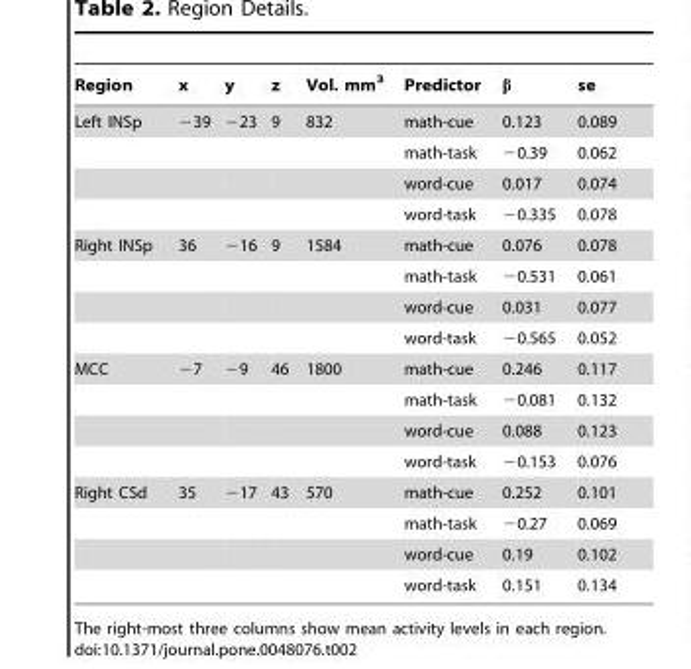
<table><thead><tr><td>Region</td><td>x</td><td>y</td><td>z</td><td>Vol. mm<sup>3</sup></td><td>Predictor</td><td>β</td><td>se</td></tr></thead><tbody><tr><td rowspan="4">Left INSp</td><td>−39</td><td>−23</td><td>9</td><td>832</td><td>math-cue</td><td>0.123</td><td>0.089</td></tr><tr><td></td><td></td><td></td><td></td><td>math-task</td><td>−0.39</td><td>0.062</td></tr><tr><td></td><td></td><td></td><td></td><td>word-cue</td><td>0.017</td><td>0.074</td></tr><tr><td></td><td></td><td></td><td></td><td>word-task</td><td>−0.335</td><td>0.078</td></tr><tr><td rowspan="4">Right INSp</td><td>36</td><td>−16</td><td>9</td><td>1584</td><td>math-cue</td><td>0.076</td><td>0.078</td></tr><tr><td></td><td></td><td></td><td></td><td>math-task</td><td>−0.531</td><td>0.061</td></tr><tr><td></td><td></td><td></td><td></td><td>word-cue</td><td>0.031</td><td>0.077</td></tr><tr><td></td><td></td><td></td><td></td><td>word-task</td><td>−0.565</td><td>0.052</td></tr><tr><td rowspan="4">MCC</td><td>−7</td><td>−9</td><td>46</td><td>1800</td><td>math-cue</td><td>0.246</td><td>0.117</td></tr><tr><td></td><td></td><td></td><td></td><td>math-task</td><td>−0.081</td><td>0.132</td></tr><tr><td></td><td></td><td></td><td></td><td>word-cue</td><td>0.088</td><td>0.123</td></tr><tr><td></td><td></td><td></td><td></td><td>word-task</td><td>−0.153</td><td>0.076</td></tr><tr><td rowspan="4">Right CSd</td><td>35</td><td>−17</td><td>43</td><td>570</td><td>math-cue</td><td>0.252</td><td>0.101</td></tr><tr><td></td><td></td><td></td><td></td><td>math-task</td><td>−0.27</td><td>0.069</td></tr><tr><td></td><td></td><td></td><td></td><td>word-cue</td><td>0.19</td><td>0.102</td></tr><tr><td></td><td></td><td></td><td></td><td>word-task</td><td>0.151</td><td>0.134</td></tr></tbody></table>